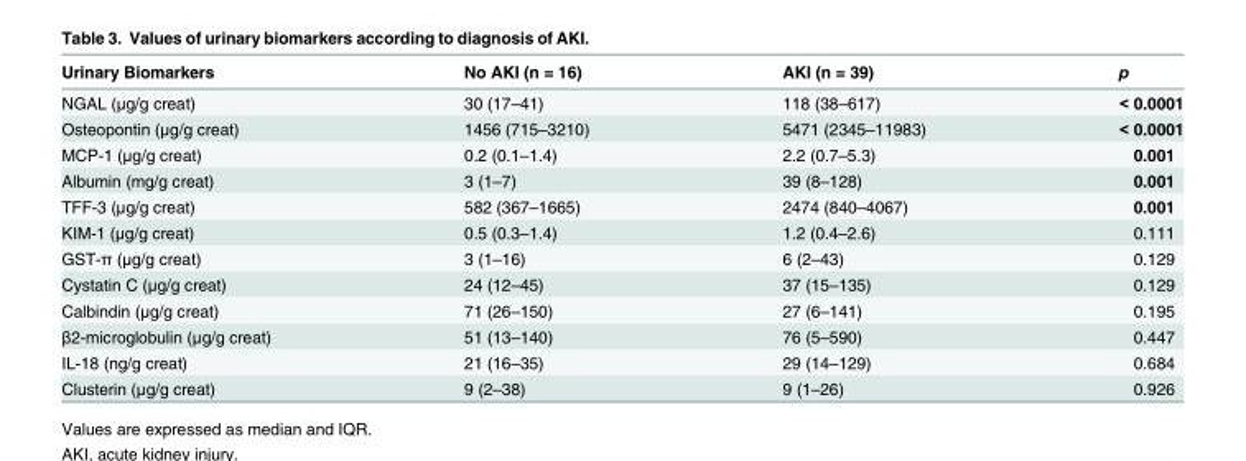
<table><thead><tr><td>Urinary Biomarkers</td><td>No AKI (n = 16)</td><td>AKI (n = 39)</td><td>p</td></tr></thead><tbody><tr><td>NGAL (μg/g creat)</td><td>30 (17–41)</td><td>118 (38–617)</td><td>&lt; 0.0001</td></tr><tr><td>Osteopontin (μg/g creat)</td><td>1456 (715–3210)</td><td>5471 (2345–11983)</td><td>&lt; 0.0001</td></tr><tr><td>MCP-1 (μg/g creat)</td><td>0.2 (0.1–1.4)</td><td>2.2 (0.7–5.3)</td><td>0.001</td></tr><tr><td>Albumin (mg/g creat)</td><td>3 (1–7)</td><td>39 (8–128)</td><td>0.001</td></tr><tr><td>TFF-3 (μg/g creat)</td><td>582 (367–1665)</td><td>2474 (840–4067)</td><td>0.001</td></tr><tr><td>KIM-1 (μg/g creat)</td><td>0.5 (0.3–1.4)</td><td>1.2 (0.4–2.6)</td><td>0.111</td></tr><tr><td>GST-π (μg/g creat)</td><td>3 (1–16)</td><td>6 (2–43)</td><td>0.129</td></tr><tr><td>Cystatin C (μg/g creat)</td><td>24 (12–45)</td><td>37 (15–135)</td><td>0.129</td></tr><tr><td>Calbindin (μg/g creat)</td><td>71 (26–150)</td><td>27 (6–141)</td><td>0.195</td></tr><tr><td>β2-microglobulin (μg/g creat)</td><td>51 (13–140)</td><td>76 (5–590)</td><td>0.447</td></tr><tr><td>IL-18 (ng/g creat)</td><td>21 (16–35)</td><td>29 (14–129)</td><td>0.684</td></tr><tr><td>Clusterin (μg/g creat)</td><td>9 (2–38)</td><td>9 (1–26)</td><td>0.926</td></tr></tbody></table>